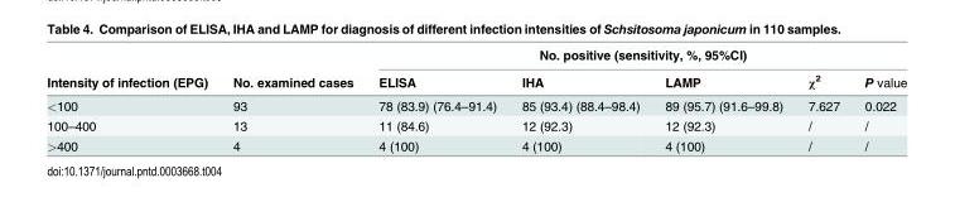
<table><thead><tr><td rowspan="2">Intensity of infection (EPG)</td><td rowspan="2">No. examined cases</td><td colspan="5">No. positive (sensitivity, %, 95%CI)</td></tr><tr><td>ELISA</td><td>IHA</td><td>LAMP</td><td>χ<sup>2</sup></td><td>P value</td></tr></thead><tbody><tr><td>&lt;100</td><td>93</td><td>78 (83.9) (76.4–91.4)</td><td>85 (93.4) (88.4–98.4)</td><td>89 (95.7) (91.6–99.8)</td><td>7.627</td><td>0.022</td></tr><tr><td>100–400</td><td>13</td><td>11 (84.6)</td><td>12 (92.3)</td><td>12 (92.3)</td><td>/</td><td>/</td></tr><tr><td>&gt;400</td><td>4</td><td>4 (100)</td><td>4 (100)</td><td>4 (100)</td><td>/</td><td>/</td></tr></tbody></table>